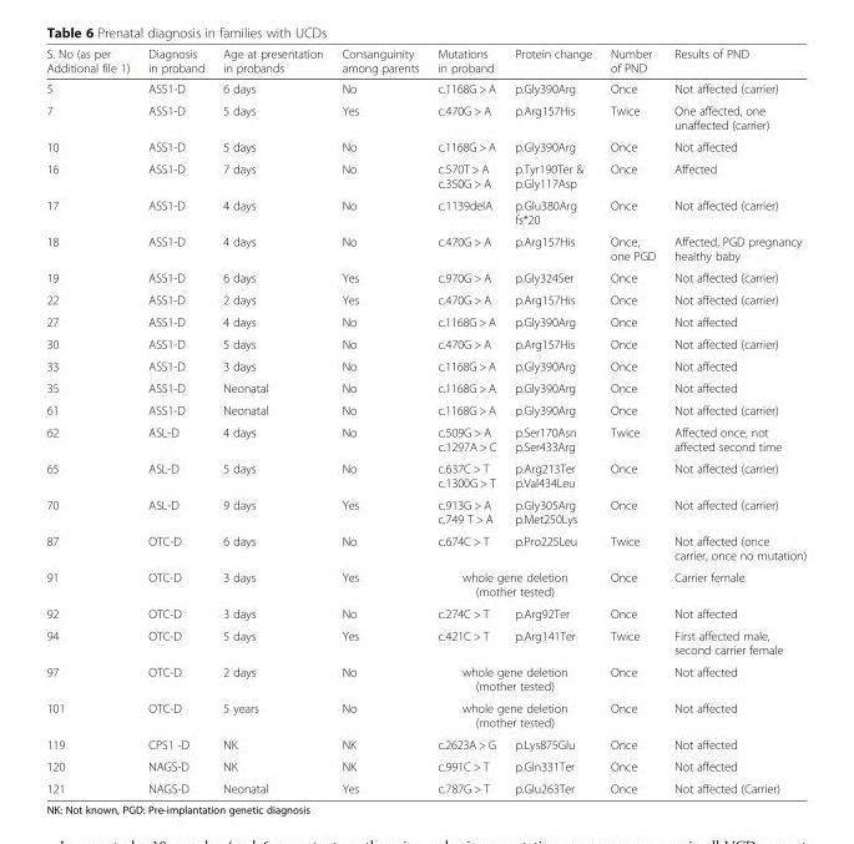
<table><thead><tr><td>S. No (as per Additional file 1)</td><td>Diagnosis in proband</td><td>Age at presentation in probands</td><td>Consanguinity among parents</td><td>Mutations in proband</td><td>Protein change</td><td>Number of PND</td><td>Results of PND</td></tr></thead><tbody><tr><td>5</td><td>ASS1-D</td><td>6 days</td><td>No</td><td>c.1168G &gt; A</td><td>p.Gly390Arg</td><td>Once</td><td>Not affected (carrier)</td></tr><tr><td>7</td><td>ASS1-D</td><td>5 days</td><td>Yes</td><td>c.470G &gt; A</td><td>p.Arg157His</td><td>Twice</td><td>One affected, one unaffected (carrier)</td></tr><tr><td>10</td><td>ASS1-D</td><td>5 days</td><td>No</td><td>c.1168G &gt; A</td><td>p.Gly390Arg</td><td>Once</td><td>Not affected</td></tr><tr><td>16</td><td>ASS1-D</td><td>7 days</td><td>No</td><td>c.570T &gt; A c.350G &gt; A</td><td>p.Tyr190Ter &amp; p.Gly117Asp</td><td>Once</td><td>Affected</td></tr><tr><td>17</td><td>ASS1-D</td><td>4 days</td><td>No</td><td>c.1139delA</td><td>p.Glu380Arg fs*20</td><td>Once</td><td>Not affected (carrier)</td></tr><tr><td>18</td><td>ASS1-D</td><td>4 days</td><td>No</td><td>c.470G &gt; A</td><td>p.Arg157His</td><td>Once, one PGD</td><td>Affected, PGD pregnancy healthy baby</td></tr><tr><td>19</td><td>ASS1-D</td><td>6 days</td><td>Yes</td><td>c.970G &gt; A</td><td>p.Gly324Ser</td><td>Once</td><td>Not affected (carrier)</td></tr><tr><td>22</td><td>ASS1-D</td><td>2 days</td><td>Yes</td><td>c.470G &gt; A</td><td>p.Arg157His</td><td>Once</td><td>Not affected (carrier)</td></tr><tr><td>27</td><td>ASS1-D</td><td>4 days</td><td>No</td><td>c.1168G &gt; A</td><td>p.Gly390Arg</td><td>Once</td><td>Not affected</td></tr><tr><td>30</td><td>ASS1-D</td><td>5 days</td><td>No</td><td>c.470G &gt; A</td><td>p.Arg157His</td><td>Once</td><td>Not affected (carrier)</td></tr><tr><td>33</td><td>ASS1-D</td><td>3 days</td><td>No</td><td>c.1168G &gt; A</td><td>p.Gly390Arg</td><td>Once</td><td>Not affected</td></tr><tr><td>35</td><td>ASS1-D</td><td>Neonatal</td><td>No</td><td>c.1168G &gt; A</td><td>p.Gly390Arg</td><td>Once</td><td>Not affected</td></tr><tr><td>61</td><td>ASS1-D</td><td>Neonatal</td><td>No</td><td>c.1168G &gt; A</td><td>p.Gly390Arg</td><td>Once</td><td>Not affected (carrier)</td></tr><tr><td>62</td><td>ASL-D</td><td>4 days</td><td>No</td><td>c.509G &gt; A c.1297A &gt; C</td><td>p.Ser170Asn p.Ser433Arg</td><td>Twice</td><td>Affected once, not affected second time</td></tr><tr><td>65</td><td>ASL-D</td><td>5 days</td><td>No</td><td>c.637C &gt; T c.1300G &gt; T</td><td>p.Arg213Ter p.Val434Leu</td><td>Once</td><td>Not affected (carrier)</td></tr><tr><td>70</td><td>ASL-D</td><td>9 days</td><td>Yes</td><td>c.913G &gt; A c.749 T &gt; A</td><td>p.Gly305Arg p.Met250Lys</td><td>Once</td><td>Not affected (carrier)</td></tr><tr><td>87</td><td>OTC-D</td><td>6 days</td><td>No</td><td>c.674C &gt; T</td><td>p.Pro225Leu</td><td>Twice</td><td>Not affected (once carrier, once no mutation)</td></tr><tr><td>91</td><td>OTC-D</td><td>3 days</td><td>Yes</td><td colspan="2">whole gene deletion (mother tested)</td><td>Once</td><td>Carrier female</td></tr><tr><td>92</td><td>OTC-D</td><td>3 days</td><td>No</td><td>c.274C &gt; T</td><td>p.Arg92Ter</td><td>Once</td><td>Not affected</td></tr><tr><td>94</td><td>OTC-D</td><td>5 days</td><td>Yes</td><td>c.421C &gt; T</td><td>p.Arg141Ter</td><td>Twice</td><td>First affected male, second carrier female</td></tr><tr><td>97</td><td>OTC-D</td><td>2 days</td><td>No</td><td colspan="2">whole gene deletion (mother tested)</td><td>Once</td><td>Not affected</td></tr><tr><td>101</td><td>OTC-D</td><td>5 years</td><td>No</td><td colspan="2">whole gene deletion (mother tested)</td><td>Once</td><td>Not affected</td></tr><tr><td>119</td><td>CPS1 -D</td><td>NK</td><td>NK</td><td>c.2623A &gt; G</td><td>p.Lys875Glu</td><td>Once</td><td>Not affected</td></tr><tr><td>120</td><td>NAGS-D</td><td>NK</td><td>NK</td><td>c.991C &gt; T</td><td>p.Gln331Ter</td><td>Once</td><td>Not affected</td></tr><tr><td>121</td><td>NAGS-D</td><td>Neonatal</td><td>Yes</td><td>c.787G &gt; T</td><td>p.Glu263Ter</td><td>Once</td><td>Not affected (Carrier)</td></tr></tbody></table>